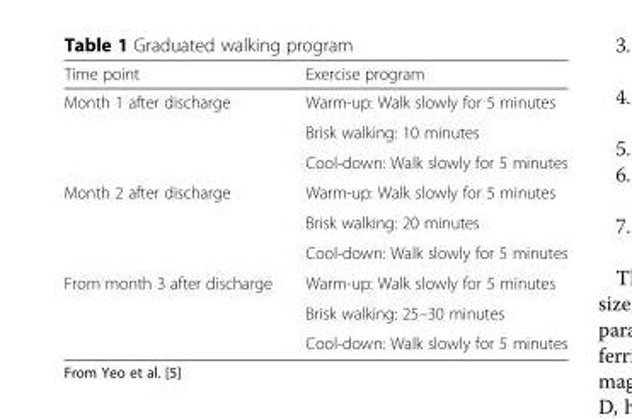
<table><thead><tr><td>Time point</td><td>Exercise program</td></tr></thead><tbody><tr><td rowspan="3">Month 1 after discharge</td><td>Warm-up: Walk slowly for 5 minutes</td></tr><tr><td>Brisk walking: 10 minutes</td></tr><tr><td>Cool-down: Walk slowly for 5 minutes</td></tr><tr><td rowspan="3">Month 2 after discharge</td><td>Warm-up: Walk slowly for 5 minutes</td></tr><tr><td>Brisk walking: 20 minutes</td></tr><tr><td>Cool-down: Walk slowly for 5 minutes</td></tr><tr><td rowspan="3">From month 3 after discharge</td><td>Warm-up: Walk slowly for 5 minutes</td></tr><tr><td>Brisk walking: 25–30 minutes</td></tr><tr><td>Cool-down: Walk slowly for 5 minutes</td></tr></tbody></table>